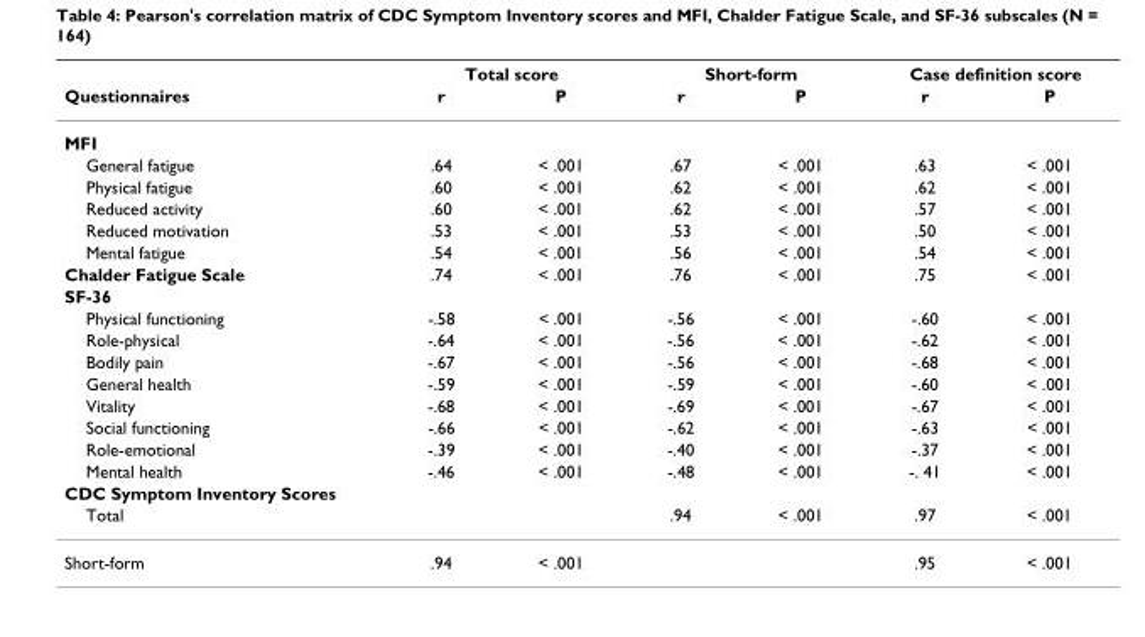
<table><thead><tr><td rowspan="2">Questionnaires</td><td colspan="2">Total score</td><td colspan="2">Short-form</td><td colspan="2">Case definition score</td></tr><tr><td>r</td><td>P</td><td>r</td><td>P</td><td>r</td><td>P</td></tr></thead><tbody><tr><td colspan="7">MFI</td></tr><tr><td>General fatigue</td><td>.64</td><td>&lt; .001</td><td>.67</td><td>&lt; .001</td><td>.63</td><td>&lt; .001</td></tr><tr><td>Physical fatigue</td><td>.60</td><td>&lt; .001</td><td>.62</td><td>&lt; .001</td><td>.62</td><td>&lt; .001</td></tr><tr><td>Reduced activity</td><td>.60</td><td>&lt; .001</td><td>.62</td><td>&lt; .001</td><td>.57</td><td>&lt; .001</td></tr><tr><td>Reduced motivation</td><td>.53</td><td>&lt; .001</td><td>.53</td><td>&lt; .001</td><td>.50</td><td>&lt; .001</td></tr><tr><td>Mental fatigue</td><td>.54</td><td>&lt; .001</td><td>.56</td><td>&lt; .001</td><td>.54</td><td>&lt; .001</td></tr><tr><td>Chalder Fatigue Scale</td><td>.74</td><td>&lt; .001</td><td>.76</td><td>&lt; .001</td><td>.75</td><td>&lt; .001</td></tr><tr><td colspan="7">SF-36</td></tr><tr><td>Physical functioning</td><td>-.58</td><td>&lt; .001</td><td>-.56</td><td>&lt; .001</td><td>-.60</td><td>&lt; .001</td></tr><tr><td>Role-physical</td><td>-.64</td><td>&lt; .001</td><td>-.56</td><td>&lt; .001</td><td>-.62</td><td>&lt; .001</td></tr><tr><td>Bodily pain</td><td>-.67</td><td>&lt; .001</td><td>-.56</td><td>&lt; .001</td><td>-.68</td><td>&lt; .001</td></tr><tr><td>General health</td><td>-.59</td><td>&lt; .001</td><td>-.59</td><td>&lt; .001</td><td>-.60</td><td>&lt; .001</td></tr><tr><td>Vitality</td><td>-.68</td><td>&lt; .001</td><td>-.69</td><td>&lt; .001</td><td>-.67</td><td>&lt; .001</td></tr><tr><td>Social functioning</td><td>-.66</td><td>&lt; .001</td><td>-.62</td><td>&lt; .001</td><td>-.63</td><td>&lt; .001</td></tr><tr><td>Role-emotional</td><td>-.39</td><td>&lt; .001</td><td>-.40</td><td>&lt; .001</td><td>-.37</td><td>&lt; .001</td></tr><tr><td>Mental health</td><td>-.46</td><td>&lt; .001</td><td>-.48</td><td>&lt; .001</td><td>-. 41</td><td>&lt; .001</td></tr><tr><td colspan="7">CDC Symptom Inventory Scores</td></tr><tr><td>Total</td><td></td><td></td><td>.94</td><td>&lt; .001</td><td>.97</td><td>&lt; .001</td></tr><tr><td>Short-form</td><td>.94</td><td>&lt; .001</td><td></td><td></td><td>.95</td><td>&lt; .001</td></tr></tbody></table>